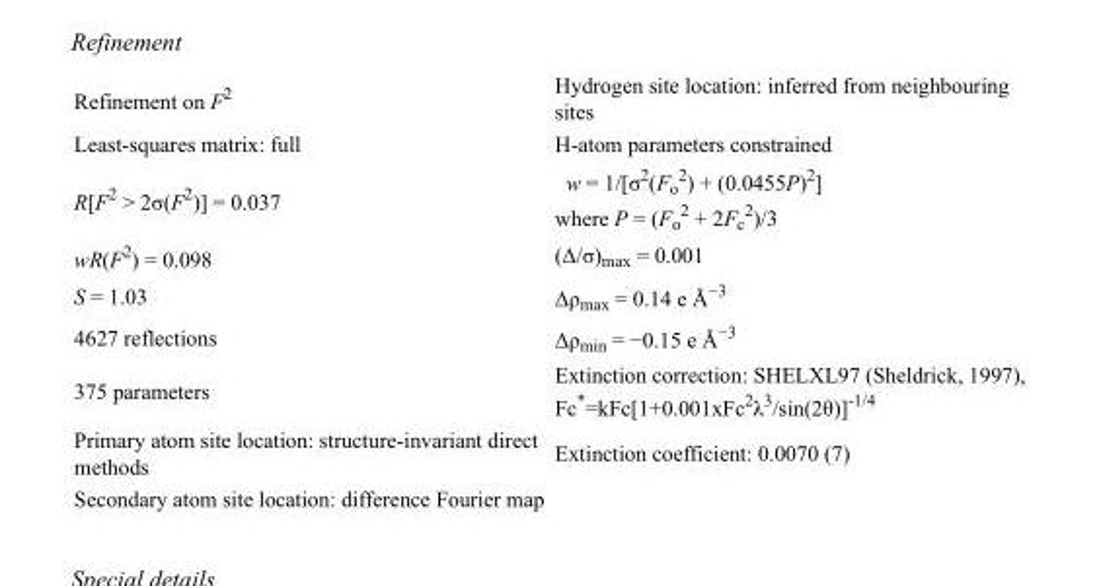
<table><tbody><tr><td>Refinement on F<sup>2</sup></td><td>Hydrogen site location: inferred from neighbouring sites</td></tr><tr><td>Least-squares matrix: full</td><td>H-atom parameters constrained</td></tr><tr><td>R[F<sup>2</sup> &gt; 2σ(F<sup>2</sup>)] = 0.037</td><td>w = 1/[σ<sup>2</sup>(F<sub>o</sub> <sup>2</sup>) + (0.0455P)<sup>2</sup>] where P = (F<sub>o</sub> <sup>2</sup> + 2F<sub>c</sub> <sup>2</sup>)/3</td></tr><tr><td>wR(F<sup>2</sup>) = 0.098</td><td>(Δ/σ)<sub>max</sub> = 0.001</td></tr><tr><td>S = 1.03</td><td>Δρ<sub>max</sub> = 0.14 e Å<sup>−3</sup></td></tr><tr><td>4627 reflections</td><td>Δρ<sub>min</sub> = −0.15 e Å<sup>−3</sup></td></tr><tr><td>375 parameters</td><td>Extinction correction: SHELXL97 (Sheldrick, 1997), Fc*=kFc[1+0.001xFc<sup>2</sup>λ<sup>3</sup>/sin(2θ)]<sup>-1/4</sup></td></tr><tr><td>Primary atom site location: structure-invariant direct methods</td><td>Extinction coefficient: 0.0070 (7)</td></tr><tr><td>Secondary atom site location: difference Fourier map</td><td></td></tr></tbody></table>